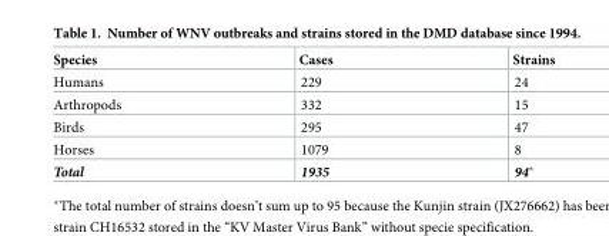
<table><thead><tr><td>Species</td><td>Cases</td><td>Strains</td></tr></thead><tbody><tr><td>Humans</td><td>229</td><td>24</td></tr><tr><td>Arthropods</td><td>332</td><td>15</td></tr><tr><td>Birds</td><td>295</td><td>47</td></tr><tr><td>Horses</td><td>1079</td><td>8</td></tr><tr><td>Total</td><td>1935</td><td>94*</td></tr></tbody></table>